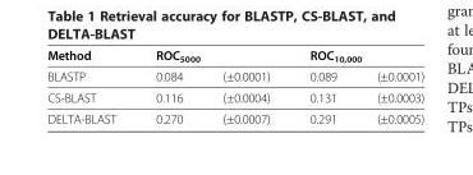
<table><thead><tr><td rowspan="2">Method BLASTP</td><td colspan="2">ROC<sub>5000</sub></td><td colspan="2">ROC<sub>10,000</sub></td></tr><tr><td>0.084</td><td>(±0.0001)</td><td>0.089</td><td>(±0.0001)</td></tr></thead><tbody><tr><td>CS-BLAST</td><td>0.116</td><td>(±0.0004)</td><td>0.131</td><td>(±0.0003)</td></tr><tr><td>DELTA-BLAST</td><td>0.270</td><td>(±0.0007)</td><td>0.291</td><td>(±0.0005)</td></tr></tbody></table>